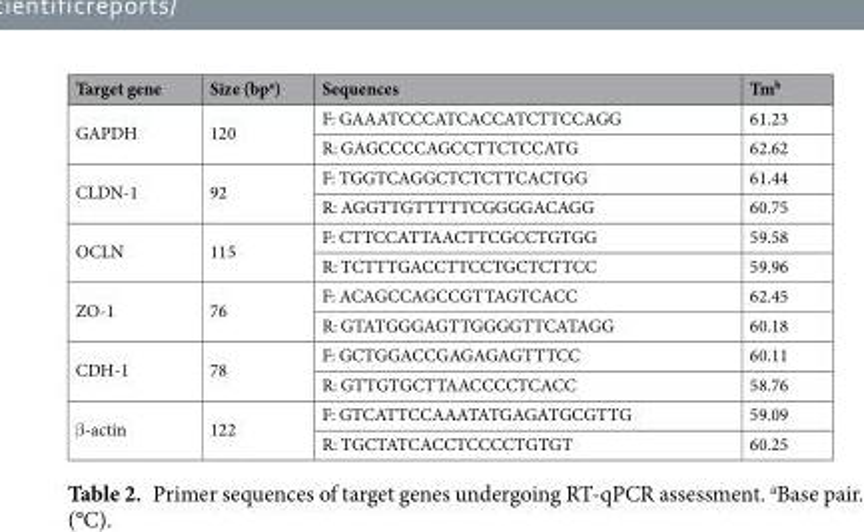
<table><thead><tr><td>Target gene</td><td>Size (bp<sup>a</sup>)</td><td>Sequences</td><td>Tm<sup>b</sup></td></tr></thead><tbody><tr><td rowspan="2">GAPDH</td><td rowspan="2">120</td><td>F: GAAATCCCATCACCATCTTCCAGG</td><td>61.23</td></tr><tr><td>R: GAGCCCCAGCCTTCTCCATG</td><td>62.62</td></tr><tr><td rowspan="2">CLDN-1</td><td rowspan="2">92</td><td>F: TGGTCAGGCTCTCTTCACTGG</td><td>61.44</td></tr><tr><td>R: AGGTTGTTTTTCGGGGACAGG</td><td>60.75</td></tr><tr><td rowspan="2">OCLN</td><td rowspan="2">115</td><td>F: CTTCCATTAACTTCGCCTGTGG</td><td>59.58</td></tr><tr><td>R: TCTTTGACCTTCCTGCTCTTCC</td><td>59.96</td></tr><tr><td rowspan="2">ZO-1</td><td rowspan="2">76</td><td>F: ACAGCCAGCCGTTAGTCACC</td><td>62.45</td></tr><tr><td>R: GTATGGGAGTTGGGGTTCATAGG</td><td>60.18</td></tr><tr><td rowspan="2">CDH-1</td><td rowspan="2">78</td><td>F: GCTGGACCGAGAGAGTTTCC</td><td>60.11</td></tr><tr><td>R: GTTGTGCTTAACCCCTCACC</td><td>58.76</td></tr><tr><td rowspan="2">β-actin</td><td rowspan="2">122</td><td>F: GTCATTCCAAATATGAGATGCGTTG</td><td>59.09</td></tr><tr><td>R: TGCTATCACCTCCCCTGTGT</td><td>60.25</td></tr></tbody></table>